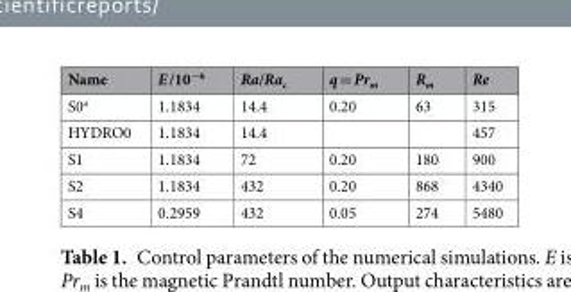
<table><thead><tr><td>Name</td><td>E /10<sup>−6</sup></td><td>Ra/Ra<sub>c</sub></td><td>q = Pr<sub>m</sub></td><td>R<sub>m</sub></td><td>Re</td></tr></thead><tbody><tr><td>S0<sup>a</sup></td><td>1.1834</td><td>14.4</td><td>0.20</td><td>63</td><td>315</td></tr><tr><td>HYDRO0</td><td>1.1834</td><td>14.4</td><td></td><td></td><td>457</td></tr><tr><td>S1</td><td>1.1834</td><td>72</td><td>0.20</td><td>180</td><td>900</td></tr><tr><td>S2</td><td>1.1834</td><td>432</td><td>0.20</td><td>868</td><td>4340</td></tr><tr><td>S4</td><td>0.2959</td><td>432</td><td>0.05</td><td>274</td><td>5480</td></tr></tbody></table>